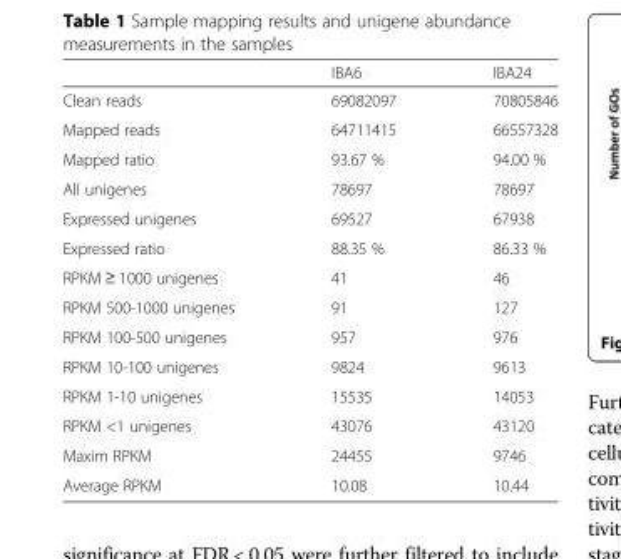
<table><thead><tr><td></td><td>IBA6</td><td>IBA24</td></tr></thead><tbody><tr><td>Clean reads</td><td>69082097</td><td>70805846</td></tr><tr><td>Mapped reads</td><td>64711415</td><td>66557328</td></tr><tr><td>Mapped ratio</td><td>93.67 %</td><td>94.00 %</td></tr><tr><td>All unigenes</td><td>78697</td><td>78697</td></tr><tr><td>Expressed unigenes</td><td>69527</td><td>67938</td></tr><tr><td>Expressed ratio</td><td>88.35 %</td><td>86.33 %</td></tr><tr><td>RPKM ≥ 1000 unigenes</td><td>41</td><td>46</td></tr><tr><td>RPKM 500-1000 unigenes</td><td>91</td><td>127</td></tr><tr><td>RPKM 100-500 unigenes</td><td>957</td><td>976</td></tr><tr><td>RPKM 10-100 unigenes</td><td>9824</td><td>9613</td></tr><tr><td>RPKM 1-10 unigenes</td><td>15535</td><td>14053</td></tr><tr><td>RPKM &lt;1 unigenes</td><td>43076</td><td>43120</td></tr><tr><td>Maxim RPKM</td><td>24455</td><td>9746</td></tr><tr><td>Average RPKM</td><td>10.08</td><td>10.44</td></tr></tbody></table>